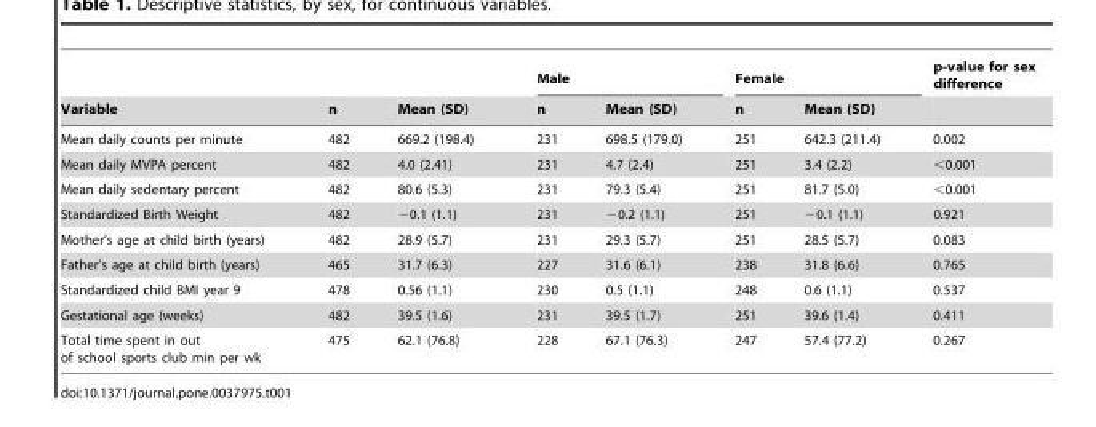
<table><thead><tr><td rowspan="2">Variable</td><td rowspan="2">n</td><td rowspan="2">Mean (SD)</td><td colspan="2">Male</td><td colspan="2">Female</td><td rowspan="2">p-value for sex difference</td></tr><tr><td>n</td><td>Mean (SD)</td><td>n</td><td>Mean (SD)</td></tr></thead><tbody><tr><td>Mean daily counts per minute</td><td>482</td><td>669.2 (198.4)</td><td>231</td><td>698.5 (179.0)</td><td>251</td><td>642.3 (211.4)</td><td>0.002</td></tr><tr><td>Mean daily MVPA percent</td><td>482</td><td>4.0 (2.41)</td><td>231</td><td>4.7 (2.4)</td><td>251</td><td>3.4 (2.2)</td><td>&lt;0.001</td></tr><tr><td>Mean daily sedentary percent</td><td>482</td><td>80.6 (5.3)</td><td>231</td><td>79.3 (5.4)</td><td>251</td><td>81.7 (5.0)</td><td>&lt;0.001</td></tr><tr><td>Standardized Birth Weight</td><td>482</td><td>−0.1 (1.1)</td><td>231</td><td>−0.2 (1.1)</td><td>251</td><td>−0.1 (1.1)</td><td>0.921</td></tr><tr><td>Mother’s age at child birth (years)</td><td>482</td><td>28.9 (5.7)</td><td>231</td><td>29.3 (5.7)</td><td>251</td><td>28.5 (5.7)</td><td>0.083</td></tr><tr><td>Father’s age at child birth (years)</td><td>465</td><td>31.7 (6.3)</td><td>227</td><td>31.6 (6.1)</td><td>238</td><td>31.8 (6.6)</td><td>0.765</td></tr><tr><td>Standardized child BMI year 9</td><td>478</td><td>0.56 (1.1)</td><td>230</td><td>0.5 (1.1)</td><td>248</td><td>0.6 (1.1)</td><td>0.537</td></tr><tr><td>Gestational age (weeks)</td><td>482</td><td>39.5 (1.6)</td><td>231</td><td>39.5 (1.7)</td><td>251</td><td>39.6 (1.4)</td><td>0.411</td></tr><tr><td>Total time spent in out of school sports club min per wk</td><td>475</td><td>62.1 (76.8)</td><td>228</td><td>67.1 (76.3)</td><td>247</td><td>57.4 (77.2)</td><td>0.267</td></tr></tbody></table>